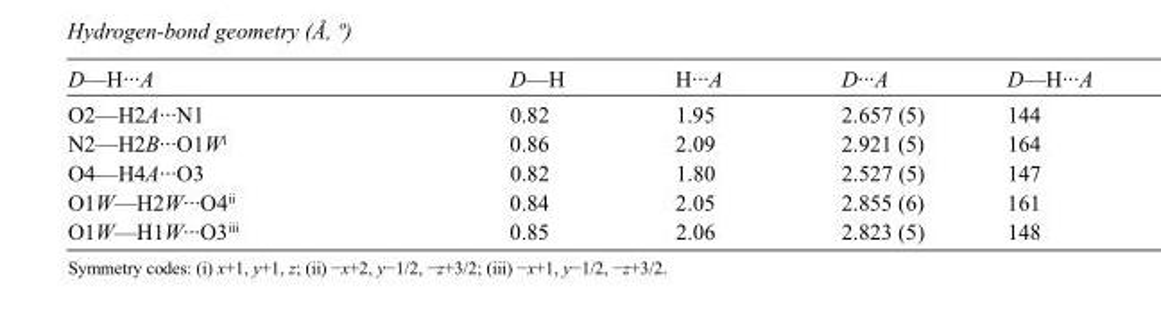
<table><tbody><tr><td>D—H···A</td><td>D—H</td><td>H···A</td><td>D···A</td><td>D—H···A</td></tr><tr><td>O2—H2A···N1</td><td>0.82</td><td>1.95</td><td>2.657 (5)</td><td>144</td></tr><tr><td>N2—H2B···O1W<sup>i</sup></td><td>0.86</td><td>2.09</td><td>2.921 (5)</td><td>164</td></tr><tr><td>O4—H4A···O3</td><td>0.82</td><td>1.80</td><td>2.527 (5)</td><td>147</td></tr><tr><td>O1W—H2W···O4<sup>ii</sup></td><td>0.84</td><td>2.05</td><td>2.855 (6)</td><td>161</td></tr><tr><td>O1W—H1W···O3<sup>iii</sup></td><td>0.85</td><td>2.06</td><td>2.823 (5)</td><td>148</td></tr></tbody></table>